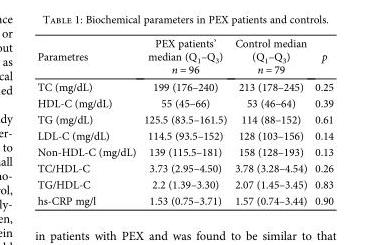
<table><thead><tr><td>Parametres</td><td>PEX patients’ median (Q<sub>1</sub>–Q<sub>3</sub>) n = 96</td><td>Control median (Q<sub>1</sub>–Q<sub>3</sub>) n = 79</td><td>p</td></tr></thead><tbody><tr><td>TC (mg/dL)</td><td>199 (176–240)</td><td>213 (178–245)</td><td>0.25</td></tr><tr><td>HDL-C (mg/dL)</td><td>55 (45–66)</td><td>53 (46–64)</td><td>0.39</td></tr><tr><td>TG (mg/dL)</td><td>125.5 (83.5–161.5)</td><td>114 (88–152)</td><td>0.61</td></tr><tr><td>LDL-C (mg/dL)</td><td>114.5 (93.5–152)</td><td>128 (103–156)</td><td>0.14</td></tr><tr><td>Non-HDL-C (mg/dL)</td><td>139 (115.5–181)</td><td>158 (128–193)</td><td>0.13</td></tr><tr><td>TC/HDL-C</td><td>3.73 (2.95–4.50)</td><td>3.78 (3.28–4.54)</td><td>0.26</td></tr><tr><td>TG/HDL-C</td><td>2.2 (1.39–3.30)</td><td>2.07 (1.45–3.45)</td><td>0.83</td></tr><tr><td>hs-CRP mg/l</td><td>1.53 (0.75–3.71)</td><td>1.57 (0.74–3.44)</td><td>0.90</td></tr></tbody></table>